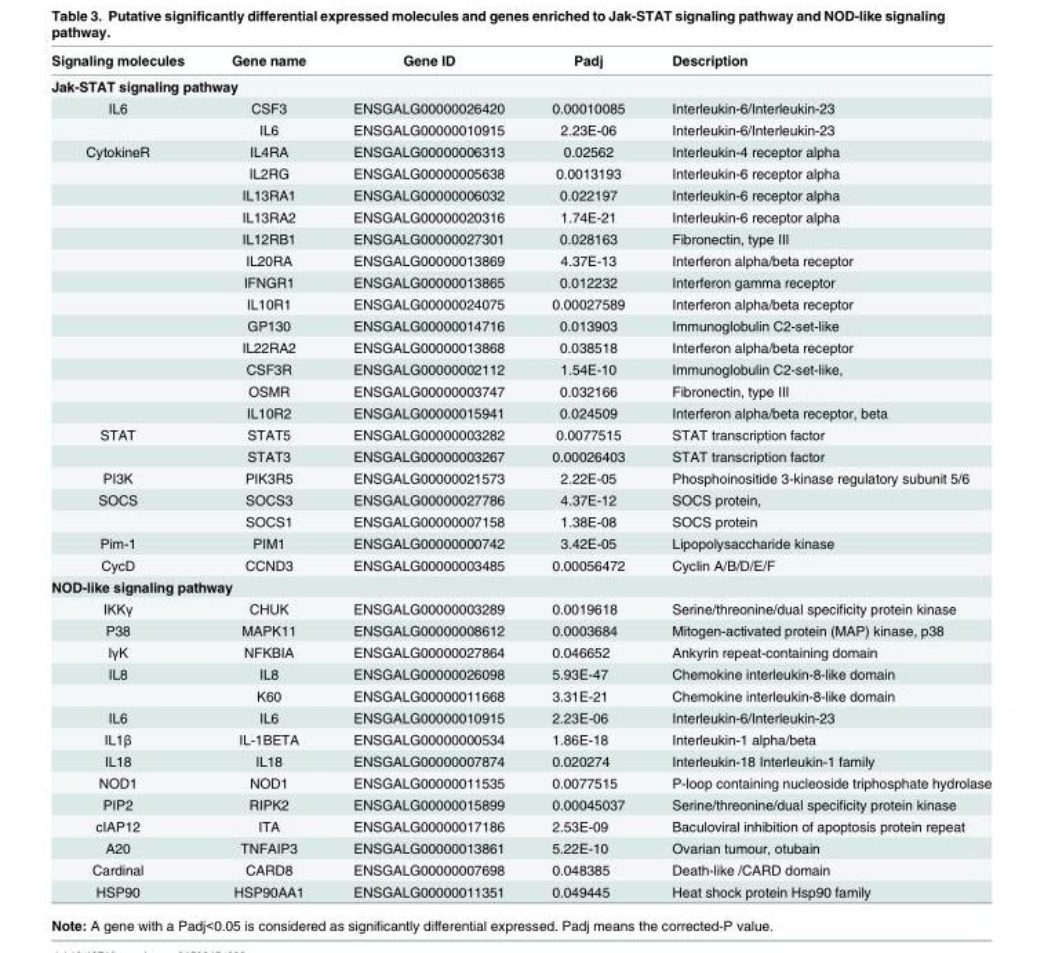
<table><thead><tr><td>Signaling molecules</td><td>Gene name</td><td>Gene ID</td><td>Padj</td><td>Description</td></tr></thead><tbody><tr><td colspan="5">Jak-STAT signaling pathway</td></tr><tr><td rowspan="2">IL6</td><td>CSF3</td><td>ENSGALG00000026420</td><td>0.00010085</td><td>Interleukin-6/Interleukin-23</td></tr><tr><td>IL6</td><td>ENSGALG00000010915</td><td>2.23E-06</td><td>Interleukin-6/Interleukin-23</td></tr><tr><td rowspan="13">CytokineR</td><td>IL4RA</td><td>ENSGALG00000006313</td><td>0.02562</td><td>Interleukin-4 receptor alpha</td></tr><tr><td>IL2RG</td><td>ENSGALG00000005638</td><td>0.0013193</td><td>Interleukin-6 receptor alpha</td></tr><tr><td>IL13RA1</td><td>ENSGALG00000006032</td><td>0.022197</td><td>Interleukin-6 receptor alpha</td></tr><tr><td>IL13RA2</td><td>ENSGALG00000020316</td><td>1.74E-21</td><td>Interleukin-6 receptor alpha</td></tr><tr><td>IL12RB1</td><td>ENSGALG00000027301</td><td>0.028163</td><td>Fibronectin, type III</td></tr><tr><td>IL20RA</td><td>ENSGALG00000013869</td><td>4.37E-13</td><td>Interferon alpha/beta receptor</td></tr><tr><td>IFNGR1</td><td>ENSGALG00000013865</td><td>0.012232</td><td>Interferon gamma receptor</td></tr><tr><td>IL10R1</td><td>ENSGALG00000024075</td><td>0.00027589</td><td>Interferon alpha/beta receptor</td></tr><tr><td>GP130</td><td>ENSGALG00000014716</td><td>0.013903</td><td>Immunoglobulin C2-set-like</td></tr><tr><td>IL22RA2</td><td>ENSGALG00000013868</td><td>0.038518</td><td>Interferon alpha/beta receptor</td></tr><tr><td>CSF3R</td><td>ENSGALG00000002112</td><td>1.54E-10</td><td>Immunoglobulin C2-set-like,</td></tr><tr><td>OSMR</td><td>ENSGALG00000003747</td><td>0.032166</td><td>Fibronectin, type III</td></tr><tr><td>IL10R2</td><td>ENSGALG00000015941</td><td>0.024509</td><td>Interferon alpha/beta receptor, beta</td></tr><tr><td rowspan="2">STAT</td><td>STAT5</td><td>ENSGALG00000003282</td><td>0.0077515</td><td>STAT transcription factor</td></tr><tr><td>STAT3</td><td>ENSGALG00000003267</td><td>0.00026403</td><td>STAT transcription factor</td></tr><tr><td>PI3K</td><td>PIK3R5</td><td>ENSGALG00000021573</td><td>2.22E-05</td><td>Phosphoinositide 3-kinase regulatory subunit 5/6</td></tr><tr><td rowspan="2">SOCS</td><td>SOCS3</td><td>ENSGALG00000027786</td><td>4.37E-12</td><td>SOCS protein,</td></tr><tr><td>SOCS1</td><td>ENSGALG00000007158</td><td>1.38E-08</td><td>SOCS protein</td></tr><tr><td>Pim-1</td><td>PIM1</td><td>ENSGALG00000000742</td><td>3.42E-05</td><td>Lipopolysaccharide kinase</td></tr><tr><td>CycD</td><td>CCND3</td><td>ENSGALG00000003485</td><td>0.00056472</td><td>Cyclin A/B/D/E/F</td></tr><tr><td colspan="5">NOD-like signaling pathway</td></tr><tr><td>IKKγ</td><td>CHUK</td><td>ENSGALG00000003289</td><td>0.0019618</td><td>Serine/threonine/dual specificity protein kinase</td></tr><tr><td>P38</td><td>MAPK11</td><td>ENSGALG00000008612</td><td>0.0003684</td><td>Mitogen-activated protein (MAP) kinase, p38</td></tr><tr><td>IγK</td><td>NFKBIA</td><td>ENSGALG00000027864</td><td>0.046652</td><td>Ankyrin repeat-containing domain</td></tr><tr><td rowspan="2">IL8</td><td>IL8</td><td>ENSGALG00000026098</td><td>5.93E-47</td><td>Chemokine interleukin-8-like domain</td></tr><tr><td>K60</td><td>ENSGALG00000011668</td><td>3.31E-21</td><td>Chemokine interleukin-8-like domain</td></tr><tr><td>IL6</td><td>IL6</td><td>ENSGALG00000010915</td><td>2.23E-06</td><td>Interleukin-6/Interleukin-23</td></tr><tr><td>IL1β</td><td>IL-1BETA</td><td>ENSGALG00000000534</td><td>1.86E-18</td><td>Interleukin-1 alpha/beta</td></tr><tr><td>IL18</td><td>IL18</td><td>ENSGALG00000007874</td><td>0.020274</td><td>Interleukin-18 Interleukin-1 family</td></tr><tr><td>NOD1</td><td>NOD1</td><td>ENSGALG00000011535</td><td>0.0077515</td><td>P-loop containing nucleoside triphosphate hydrolase</td></tr><tr><td>PIP2</td><td>RIPK2</td><td>ENSGALG00000015899</td><td>0.00045037</td><td>Serine/threonine/dual specificity protein kinase</td></tr><tr><td>cIAP12</td><td>ITA</td><td>ENSGALG00000017186</td><td>2.53E-09</td><td>Baculoviral inhibition of apoptosis protein repeat</td></tr><tr><td>A20</td><td>TNFAIP3</td><td>ENSGALG00000013861</td><td>5.22E-10</td><td>Ovarian tumour, otubain</td></tr><tr><td>Cardinal</td><td>CARD8</td><td>ENSGALG00000007698</td><td>0.048385</td><td>Death-like /CARD domain</td></tr><tr><td>HSP90</td><td>HSP90AA1</td><td>ENSGALG00000011351</td><td>0.049445</td><td>Heat shock protein Hsp90 family</td></tr></tbody></table>